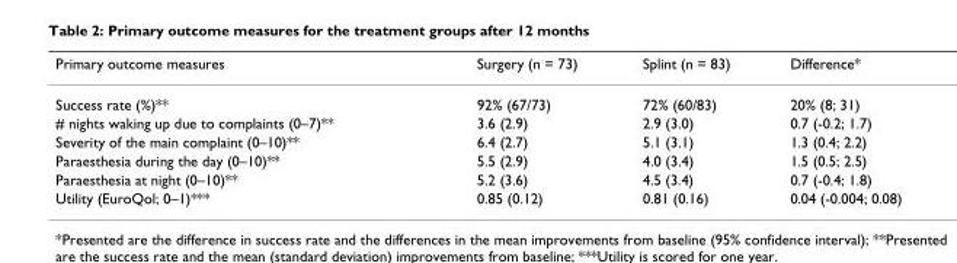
<table><thead><tr><td>Primary outcome measures</td><td>Surgery (n = 73)</td><td>Splint (n = 83)</td><td>Difference*</td></tr></thead><tbody><tr><td>Success rate (%)**</td><td>92% (67/73)</td><td>72% (60/83)</td><td>20% (8; 31)</td></tr><tr><td># nights waking up due to complaints (0–7)**</td><td>3.6 (2.9)</td><td>2.9 (3.0)</td><td>0.7 (-0.2; 1.7)</td></tr><tr><td>Severity of the main complaint (0–10)**</td><td>6.4 (2.7)</td><td>5.1 (3.1)</td><td>1.3 (0.4; 2.2)</td></tr><tr><td>Paraesthesia during the day (0–10)**</td><td>5.5 (2.9)</td><td>4.0 (3.4)</td><td>1.5 (0.5; 2.5)</td></tr><tr><td>Paraesthesia at night (0–10)**</td><td>5.2 (3.6)</td><td>4.5 (3.4)</td><td>0.7 (-0.4; 1.8)</td></tr><tr><td>Utility (EuroQol; 0–1)***</td><td>0.85 (0.12)</td><td>0.81 (0.16)</td><td>0.04 (-0.004; 0.08)</td></tr></tbody></table>